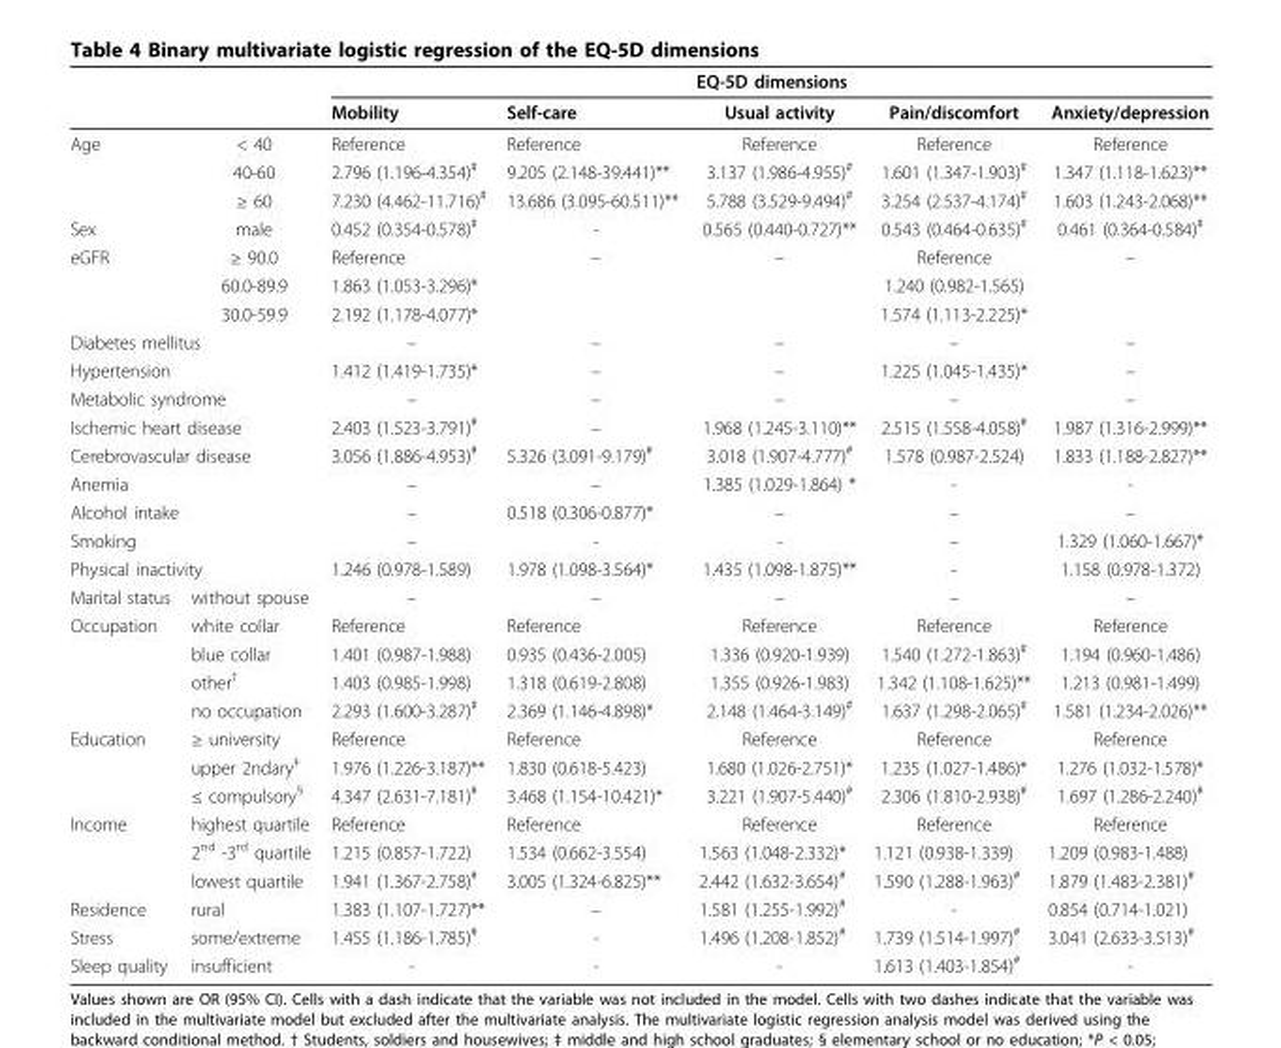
<table><thead><tr><td rowspan="2"></td><td rowspan="2"></td><td colspan="5">EQ-5D dimensions</td></tr><tr><td>Mobility</td><td>Self-care</td><td>Usual activity</td><td>Pain/discomfort</td><td>Anxiety/depression</td></tr></thead><tbody><tr><td rowspan="3">Age</td><td>&lt; 40</td><td>Reference</td><td>Reference</td><td>Reference</td><td>Reference</td><td>Reference</td></tr><tr><td>40-60</td><td>2.796 (1.196-4.354)<sup>#</sup></td><td>9.205 (2.148-39.441)**</td><td>3.137 (1.986-4.955)<sup>#</sup></td><td>1.601 (1.347-1.903)<sup>#</sup></td><td>1.347 (1.118-1.623)**</td></tr><tr><td>≥ 60</td><td>7.230 (4.462-11.716)<sup>#</sup></td><td>13.686 (3.095-60.511)**</td><td>5.788 (3.529-9.494)<sup>#</sup></td><td>3.254 (2.537-4.174)<sup>#</sup></td><td>1.603 (1.243-2.068)**</td></tr><tr><td>Sex</td><td>male</td><td>0.452 (0.354-0.578)<sup>#</sup></td><td>-</td><td>0.565 (0.440-0.727)**</td><td>0.543 (0.464-0.635)<sup>#</sup></td><td>0.461 (0.364-0.584)<sup>#</sup></td></tr><tr><td rowspan="3">eGFR</td><td>≥ 90.0</td><td>Reference</td><td>–</td><td>–</td><td>Reference</td><td>–</td></tr><tr><td>60.0-89.9</td><td>1.863 (1.053-3.296)*</td><td></td><td></td><td>1.240 (0.982-1.565)</td><td></td></tr><tr><td>30.0-59.9</td><td>2.192 (1.178-4.077)*</td><td></td><td></td><td>1.574 (1.113-2.225)*</td><td></td></tr><tr><td colspan="2">Diabetes mellitus</td><td>–</td><td>–</td><td>–</td><td>–</td><td>–</td></tr><tr><td colspan="2">Hypertension</td><td>1.412 (1.419-1.735)*</td><td>–</td><td>–</td><td>1.225 (1.045-1.435)*</td><td>–</td></tr><tr><td colspan="2">Metabolic syndrome</td><td>–</td><td>–</td><td>–</td><td>–</td><td>–</td></tr><tr><td colspan="2">Ischemic heart disease</td><td>2.403 (1.523-3.791)<sup>#</sup></td><td>–</td><td>1.968 (1.245-3.110)**</td><td>2.515 (1.558-4.058)<sup>#</sup></td><td>1.987 (1.316-2.999)**</td></tr><tr><td colspan="2">Cerebrovascular disease</td><td>3.056 (1.886-4.953)<sup>#</sup></td><td>5.326 (3.091-9.179)<sup>#</sup></td><td>3.018 (1.907-4.777)<sup>#</sup></td><td>1.578 (0.987-2.524)</td><td>1.833 (1.188-2.827)**</td></tr><tr><td colspan="2">Anemia</td><td>–</td><td>–</td><td>1.385 (1.029-1.864) *</td><td>-</td><td>-</td></tr><tr><td colspan="2">Alcohol intake</td><td>–</td><td>0.518 (0.306-0.877)*</td><td>–</td><td>–</td><td>–</td></tr><tr><td colspan="2">Smoking</td><td>–</td><td>-</td><td>-</td><td>–</td><td>1.329 (1.060-1.667)*</td></tr><tr><td colspan="2">Physical inactivity</td><td>1.246 (0.978-1.589)</td><td>1.978 (1.098-3.564)*</td><td>1.435 (1.098-1.875)**</td><td>-</td><td>1.158 (0.978-1.372)</td></tr><tr><td>Marital status</td><td>without spouse</td><td>–</td><td>–</td><td>–</td><td>–</td><td>–</td></tr><tr><td rowspan="4">Occupation</td><td>white collar</td><td>Reference</td><td>Reference</td><td>Reference</td><td>Reference</td><td>Reference</td></tr><tr><td>blue collar</td><td>1.401 (0.987-1.988)</td><td>0.935 (0.436-2.005)</td><td>1.336 (0.920-1.939)</td><td>1.540 (1.272-1.863)<sup>#</sup></td><td>1.194 (0.960-1.486)</td></tr><tr><td>other<sup>†</sup></td><td>1.403 (0.985-1.998)</td><td>1.318 (0.619-2.808)</td><td>1.355 (0.926-1.983)</td><td>1.342 (1.108-1.625)**</td><td>1.213 (0.981-1.499)</td></tr><tr><td>no occupation</td><td>2.293 (1.600-3.287)<sup>#</sup></td><td>2.369 (1.146-4.898)*</td><td>2.148 (1.464-3.149)<sup>#</sup></td><td>1.637 (1.298-2.065)<sup>#</sup></td><td>1.581 (1.234-2.026)**</td></tr><tr><td rowspan="3">Education</td><td>≥ university</td><td>Reference</td><td>Reference</td><td>Reference</td><td>Reference</td><td>Reference</td></tr><tr><td>upper 2ndary<sup>‡</sup></td><td>1.976 (1.226-3.187)**</td><td>1.830 (0.618-5.423)</td><td>1.680 (1.026-2.751)*</td><td>1.235 (1.027-1.486)*</td><td>1.276 (1.032-1.578)*</td></tr><tr><td>≤ compulsory<sup>§</sup></td><td>4.347 (2.631-7.181)<sup>#</sup></td><td>3.468 (1.154-10.421)*</td><td>3.221 (1.907-5.440)<sup>#</sup></td><td>2.306 (1.810-2.938)<sup>#</sup></td><td>1.697 (1.286-2.240)<sup>#</sup></td></tr><tr><td rowspan="3">Income</td><td>highest quartile</td><td>Reference</td><td>Reference</td><td>Reference</td><td>Reference</td><td>Reference</td></tr><tr><td>2<sup>nd</sup> -3<sup>rd</sup> quartile</td><td>1.215 (0.857-1.722)</td><td>1.534 (0.662-3.554)</td><td>1.563 (1.048-2.332)*</td><td>1.121 (0.938-1.339)</td><td>1.209 (0.983-1.488)</td></tr><tr><td>lowest quartile</td><td>1.941 (1.367-2.758)<sup>#</sup></td><td>3.005 (1.324-6.825)**</td><td>2.442 (1.632-3.654)<sup>#</sup></td><td>1.590 (1.288-1.963)<sup>#</sup></td><td>1.879 (1.483-2.381)<sup>#</sup></td></tr><tr><td>Residence</td><td>rural</td><td>1.383 (1.107-1.727)**</td><td>–</td><td>1.581 (1.255-1.992)<sup>#</sup></td><td>-</td><td>0.854 (0.714-1.021)</td></tr><tr><td>Stress</td><td>some/extreme</td><td>1.455 (1.186-1.785)<sup>#</sup></td><td>-</td><td>1.496 (1.208-1.852)<sup>#</sup></td><td>1.739 (1.514-1.997)<sup>#</sup></td><td>3.041 (2.633-3.513)<sup>#</sup></td></tr><tr><td>Sleep quality</td><td>insufficient</td><td>-</td><td>-</td><td>-</td><td>1.613 (1.403-1.854)<sup>#</sup></td><td>-</td></tr></tbody></table>